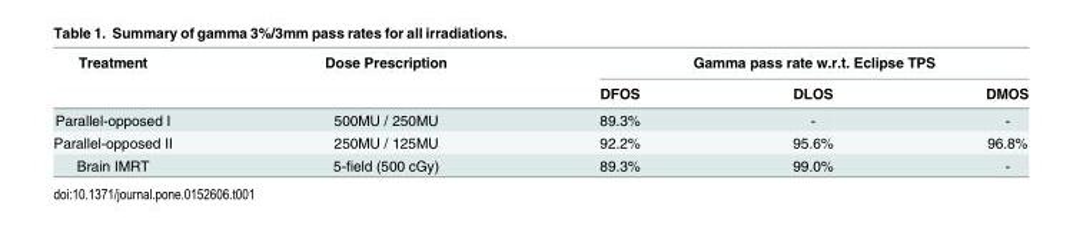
<table><thead><tr><td rowspan="2">Treatment</td><td rowspan="2">Dose Prescription</td><td colspan="3">Gamma pass rate w.r.t. Eclipse TPS</td></tr><tr><td>DFOS</td><td>DLOS</td><td>DMOS</td></tr></thead><tbody><tr><td>Parallel-opposed I</td><td>500MU / 250MU</td><td>89.3%</td><td>-</td><td>-</td></tr><tr><td>Parallel-opposed II</td><td>250MU / 125MU</td><td>92.2%</td><td>95.6%</td><td>96.8%</td></tr><tr><td>Brain IMRT</td><td>5-field (500 cGy)</td><td>89.3%</td><td>99.0%</td><td>-</td></tr></tbody></table>